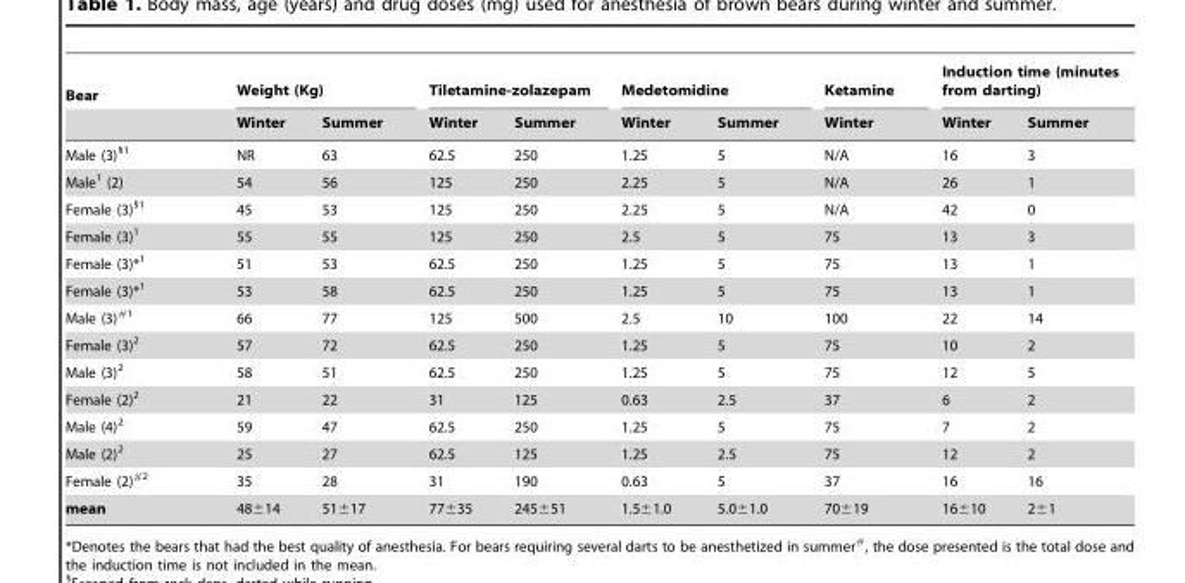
<table><thead><tr><td rowspan="2">Bear</td><td colspan="2">Weight (Kg)</td><td colspan="2">Tiletamine-zolazepam</td><td colspan="2">Medetomidine</td><td rowspan="2">Ketamine Winter</td><td colspan="2">Induction time (minutes from darting)</td></tr><tr><td>Winter</td><td>Summer</td><td>Winter</td><td>Summer</td><td>Winter</td><td>Summer</td><td>Winter</td><td>Summer</td></tr></thead><tbody><tr><td>Male (3)§<sup>1</sup></td><td>NR</td><td>63</td><td>62.5</td><td>250</td><td>1.25</td><td>5</td><td>N/A</td><td>16</td><td>3</td></tr><tr><td>Male<sup>1</sup> (2)</td><td>54</td><td>56</td><td>125</td><td>250</td><td>2.25</td><td>5</td><td>N/A</td><td>26</td><td>1</td></tr><tr><td>Female (3)§<sup>1</sup></td><td>45</td><td>53</td><td>125</td><td>250</td><td>2.25</td><td>5</td><td>N/A</td><td>42</td><td>0</td></tr><tr><td>Female (3)<sup>1</sup></td><td>55</td><td>55</td><td>125</td><td>250</td><td>2.5</td><td>5</td><td>75</td><td>13</td><td>3</td></tr><tr><td>Female (3)*1</td><td>51</td><td>53</td><td>62.5</td><td>250</td><td>1.25</td><td>5</td><td>75</td><td>13</td><td>1</td></tr><tr><td>Female (3)*1</td><td>53</td><td>58</td><td>62.5</td><td>250</td><td>1.25</td><td>5</td><td>75</td><td>13</td><td>1</td></tr><tr><td>Male (3)<sup>#1</sup></td><td>66</td><td>77</td><td>125</td><td>500</td><td>2.5</td><td>10</td><td>100</td><td>22</td><td>14</td></tr><tr><td>Female (3)<sup>2</sup></td><td>57</td><td>72</td><td>62.5</td><td>250</td><td>1.25</td><td>5</td><td>75</td><td>10</td><td>2</td></tr><tr><td>Male (3)<sup>2</sup></td><td>58</td><td>51</td><td>62.5</td><td>250</td><td>1.25</td><td>5</td><td>75</td><td>12</td><td>5</td></tr><tr><td>Female (2)<sup>2</sup></td><td>21</td><td>22</td><td>31</td><td>125</td><td>0.63</td><td>2.5</td><td>37</td><td>6</td><td>2</td></tr><tr><td>Male (4)<sup>2</sup></td><td>59</td><td>47</td><td>62.5</td><td>250</td><td>1.25</td><td>5</td><td>75</td><td>7</td><td>2</td></tr><tr><td>Male (2)<sup>2</sup></td><td>25</td><td>27</td><td>62.5</td><td>125</td><td>1.25</td><td>2.5</td><td>75</td><td>12</td><td>2</td></tr><tr><td>Female (2)<sup>#2</sup></td><td>35</td><td>28</td><td>31</td><td>190</td><td>0.63</td><td>5</td><td>37</td><td>16</td><td>16</td></tr><tr><td>mean</td><td>48±14</td><td>51±17</td><td>77±35</td><td>245±51</td><td>1.5±1.0</td><td>5.0±1.0</td><td>70±19</td><td>16±10</td><td>2±1</td></tr></tbody></table>